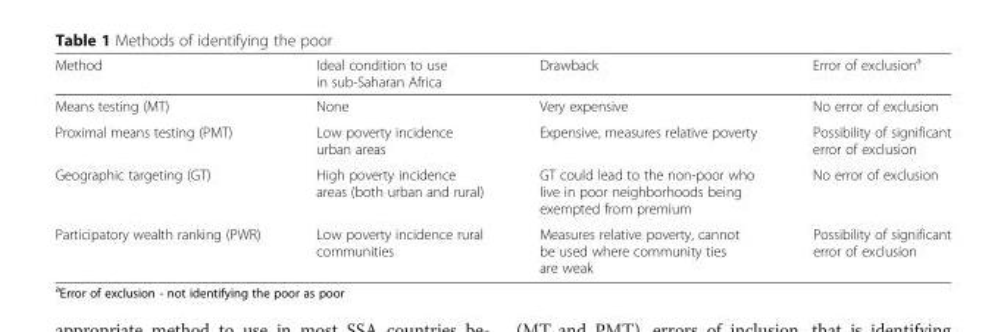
<table><thead><tr><td>Method</td><td>Ideal condition to use in sub-Saharan Africa</td><td>Drawback</td><td>Error of exclusion<sup>a</sup></td></tr></thead><tbody><tr><td>Means testing (MT)</td><td>None</td><td>Very expensive</td><td>No error of exclusion</td></tr><tr><td>Proximal means testing (PMT)</td><td>Low poverty incidence urban areas</td><td>Expensive, measures relative poverty</td><td>Possibility of significant error of exclusion</td></tr><tr><td>Geographic targeting (GT)</td><td>High poverty incidence areas (both urban and rural)</td><td>GT could lead to the non-poor who live in poor neighborhoods being exempted from premium</td><td>No error of exclusion</td></tr><tr><td>Participatory wealth ranking (PWR)</td><td>Low poverty incidence rural communities</td><td>Measures relative poverty, cannot be used where community ties are weak</td><td>Possibility of significant error of exclusion</td></tr></tbody></table>